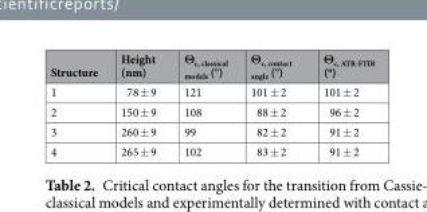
<table><thead><tr><td>Structure</td><td>Height (nm)</td><td>Θ<sub>c, classical models</sub> (°)</td><td>Θ<sub>c, contact angle</sub> (°)</td><td>Θ<sub>c, ATR-FTIR</sub> (<sup>o</sup>)</td></tr></thead><tbody><tr><td>1</td><td>78 ± 9</td><td>121</td><td>101 ± 2</td><td>101 ± 2</td></tr><tr><td>2</td><td>150 ± 9</td><td>108</td><td>88 ± 2</td><td>96 ± 2</td></tr><tr><td>3</td><td>260 ± 9</td><td>99</td><td>82 ± 2</td><td>91 ± 2</td></tr><tr><td>4</td><td>265 ± 9</td><td>102</td><td>83 ± 2</td><td>91 ± 2</td></tr></tbody></table>